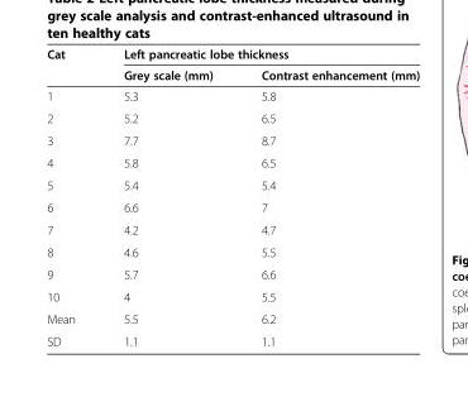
<table><thead><tr><td rowspan="2">Cat</td><td colspan="2">Left pancreatic lobe thickness</td></tr><tr><td>Grey scale (mm)</td><td>Contrast enhancement (mm)</td></tr></thead><tbody><tr><td>1</td><td>5.3</td><td>5.8</td></tr><tr><td>2</td><td>5.2</td><td>6.5</td></tr><tr><td>3</td><td>7.7</td><td>8.7</td></tr><tr><td>4</td><td>5.8</td><td>6.5</td></tr><tr><td>5</td><td>5.4</td><td>5.4</td></tr><tr><td>6</td><td>6.6</td><td>7</td></tr><tr><td>7</td><td>4.2</td><td>4.7</td></tr><tr><td>8</td><td>4.6</td><td>5.5</td></tr><tr><td>9</td><td>5.7</td><td>6.6</td></tr><tr><td>10</td><td>4</td><td>5.5</td></tr><tr><td>Mean</td><td>5.5</td><td>6.2</td></tr><tr><td>SD</td><td>1.1</td><td>1.1</td></tr></tbody></table>